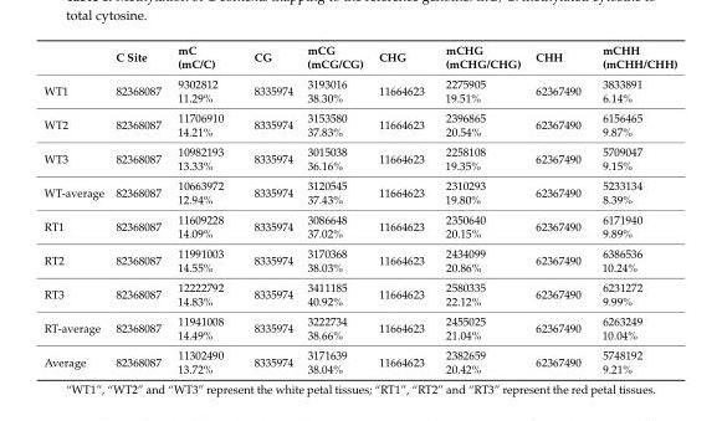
<table><thead><tr><td></td><td>C Site</td><td>mC (mC/C)</td><td>CG</td><td>mCG (mCG/CG)</td><td>CHG</td><td>mCHG (mCHG/CHG)</td><td>CHH</td><td>mCHH (mCHH/CHH)</td></tr></thead><tbody><tr><td>WT1</td><td>82368087</td><td>9302812 11.29%</td><td>8335974</td><td>3193016 38.30%</td><td>11664623</td><td>2275905 19.51%</td><td>62367490</td><td>3833891 6.14%</td></tr><tr><td>WT2</td><td>82368087</td><td>11706910 14.21%</td><td>8335974</td><td>3153580 37.83%</td><td>11664623</td><td>2396865 20.54%</td><td>62367490</td><td>6156465 9.87%</td></tr><tr><td>WT3</td><td>82368087</td><td>10982193 13.33%</td><td>8335974</td><td>3015038 36.16%</td><td>11664623</td><td>2258108 19.35%</td><td>62367490</td><td>5709047 9.15%</td></tr><tr><td>WT-average</td><td>82368087</td><td>10663972 12.94%</td><td>8335974</td><td>3120545 37.43%</td><td>11664623</td><td>2310293 19.80%</td><td>62367490</td><td>5233134 8.39%</td></tr><tr><td>RT1</td><td>82368087</td><td>11609228 14.09%</td><td>8335974</td><td>3086648 37.02%</td><td>11664623</td><td>2350640 20.15%</td><td>62367490</td><td>6171940 9.89%</td></tr><tr><td>RT2</td><td>82368087</td><td>11991003 14.55%</td><td>8335974</td><td>3170368 38.03%</td><td>11664623</td><td>2434099 20.86%</td><td>62367490</td><td>6386536 10.24%</td></tr><tr><td>RT3</td><td>82368087</td><td>12222792 14.83%</td><td>8335974</td><td>3411185 40.92%</td><td>11664623</td><td>2580335 22.12%</td><td>62367490</td><td>6231272 9.99%</td></tr><tr><td>RT-average</td><td>82368087</td><td>11941008 14.49%</td><td>8335974</td><td>3222734 38.66%</td><td>11664623</td><td>2455025 21.04%</td><td>62367490</td><td>6263249 10.04%</td></tr><tr><td>Average</td><td>82368087</td><td>11302490 13.72%</td><td>8335974</td><td>3171639 38.04%</td><td>11664623</td><td>2382659 20.42%</td><td>62367490</td><td>5748192 9.21%</td></tr></tbody></table>